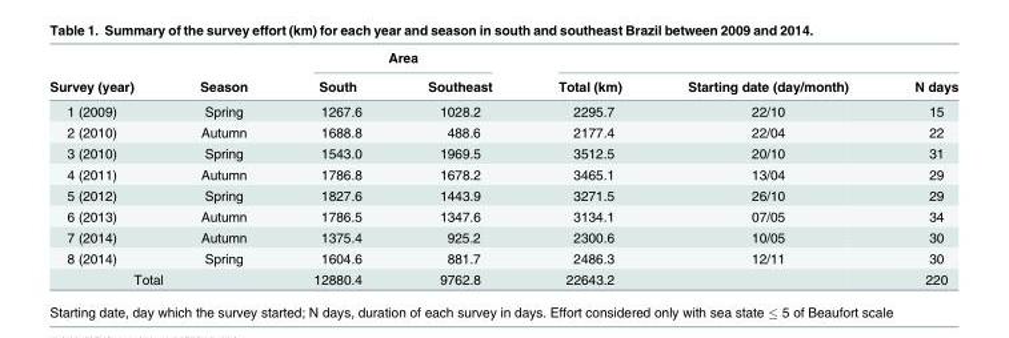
<table><thead><tr><td rowspan="2">Survey (year)</td><td rowspan="2">Season</td><td colspan="2">Area</td><td rowspan="2">Total (km)</td><td rowspan="2">Starting date (day/month)</td><td rowspan="2">N days</td></tr><tr><td>South</td><td>Southeast</td></tr></thead><tbody><tr><td>1 (2009)</td><td>Spring</td><td>1267.6</td><td>1028.2</td><td>2295.7</td><td>22/10</td><td>15</td></tr><tr><td>2 (2010)</td><td>Autumn</td><td>1688.8</td><td>488.6</td><td>2177.4</td><td>22/04</td><td>22</td></tr><tr><td>3 (2010)</td><td>Spring</td><td>1543.0</td><td>1969.5</td><td>3512.5</td><td>20/10</td><td>31</td></tr><tr><td>4 (2011)</td><td>Autumn</td><td>1786.8</td><td>1678.2</td><td>3465.1</td><td>13/04</td><td>29</td></tr><tr><td>5 (2012)</td><td>Spring</td><td>1827.6</td><td>1443.9</td><td>3271.5</td><td>26/10</td><td>29</td></tr><tr><td>6 (2013)</td><td>Autumn</td><td>1786.5</td><td>1347.6</td><td>3134.1</td><td>07/05</td><td>34</td></tr><tr><td>7 (2014)</td><td>Autumn</td><td>1375.4</td><td>925.2</td><td>2300.6</td><td>10/05</td><td>30</td></tr><tr><td>8 (2014)</td><td>Spring</td><td>1604.6</td><td>881.7</td><td>2486.3</td><td>12/11</td><td>30</td></tr><tr><td colspan="2">Total</td><td>12880.4</td><td>9762.8</td><td>22643.2</td><td></td><td>220</td></tr></tbody></table>